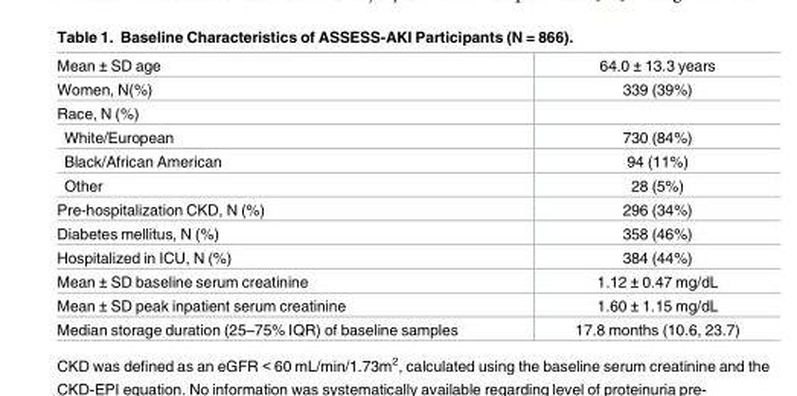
<table><tbody><tr><td>Mean ± SD age</td><td>64.0 ± 13.3 years</td></tr><tr><td>Women, N(%)</td><td>339 (39%)</td></tr><tr><td colspan="2">Race, N (%)</td></tr><tr><td>White/European</td><td>730 (84%)</td></tr><tr><td>Black/African American</td><td>94 (11%)</td></tr><tr><td>Other</td><td>28 (5%)</td></tr><tr><td>Pre-hospitalization CKD, N (%)</td><td>296 (34%)</td></tr><tr><td>Diabetes mellitus, N (%)</td><td>358 (46%)</td></tr><tr><td>Hospitalized in ICU, N (%)</td><td>384 (44%)</td></tr><tr><td>Mean ± SD baseline serum creatinine</td><td>1.12 ± 0.47 mg/dL</td></tr><tr><td>Mean ± SD peak inpatient serum creatinine</td><td>1.60 ± 1.15 mg/dL</td></tr><tr><td>Median storage duration (25–75% IQR) of baseline samples</td><td>17.8 months (10.6, 23.7)</td></tr></tbody></table>